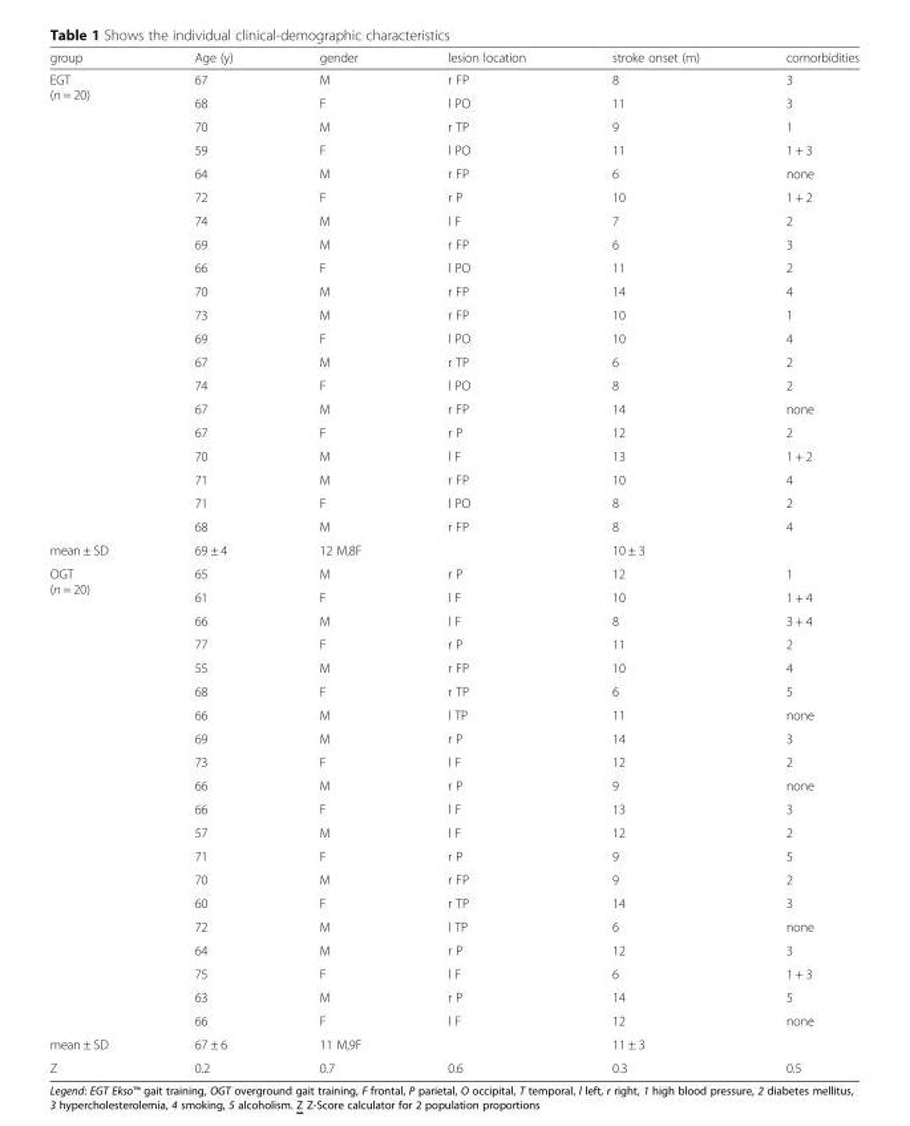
<table><thead><tr><td>group</td><td>Age (y)</td><td>gender</td><td>lesion location</td><td>stroke onset (m)</td><td>comorbidities</td></tr></thead><tbody><tr><td rowspan="20">EGT (n = 20)</td><td>67</td><td>M</td><td>r FP</td><td>8</td><td>3</td></tr><tr><td>68</td><td>F</td><td>l PO</td><td>11</td><td>3</td></tr><tr><td>70</td><td>M</td><td>r TP</td><td>9</td><td>1</td></tr><tr><td>59</td><td>F</td><td>l PO</td><td>11</td><td>1 + 3</td></tr><tr><td>64</td><td>M</td><td>r FP</td><td>6</td><td>none</td></tr><tr><td>72</td><td>F</td><td>r P</td><td>10</td><td>1 + 2</td></tr><tr><td>74</td><td>M</td><td>l F</td><td>7</td><td>2</td></tr><tr><td>69</td><td>M</td><td>r FP</td><td>6</td><td>3</td></tr><tr><td>66</td><td>F</td><td>l PO</td><td>11</td><td>2</td></tr><tr><td>70</td><td>M</td><td>r FP</td><td>14</td><td>4</td></tr><tr><td>73</td><td>M</td><td>r FP</td><td>10</td><td>1</td></tr><tr><td>69</td><td>F</td><td>l PO</td><td>10</td><td>4</td></tr><tr><td>67</td><td>M</td><td>r TP</td><td>6</td><td>2</td></tr><tr><td>74</td><td>F</td><td>l PO</td><td>8</td><td>2</td></tr><tr><td>67</td><td>M</td><td>r FP</td><td>14</td><td>none</td></tr><tr><td>67</td><td>F</td><td>r P</td><td>12</td><td>2</td></tr><tr><td>70</td><td>M</td><td>l F</td><td>13</td><td>1 + 2</td></tr><tr><td>71</td><td>M</td><td>r FP</td><td>10</td><td>4</td></tr><tr><td>71</td><td>F</td><td>l PO</td><td>8</td><td>2</td></tr><tr><td>68</td><td>M</td><td>r FP</td><td>8</td><td>4</td></tr><tr><td>mean ± SD</td><td>69 ± 4</td><td>12 M,8F</td><td></td><td>10 ± 3</td><td></td></tr><tr><td rowspan="20">OGT (n = 20)</td><td>65</td><td>M</td><td>r P</td><td>12</td><td>1</td></tr><tr><td>61</td><td>F</td><td>l F</td><td>10</td><td>1 + 4</td></tr><tr><td>66</td><td>M</td><td>l F</td><td>8</td><td>3 + 4</td></tr><tr><td>77</td><td>F</td><td>r P</td><td>11</td><td>2</td></tr><tr><td>55</td><td>M</td><td>r FP</td><td>10</td><td>4</td></tr><tr><td>68</td><td>F</td><td>r TP</td><td>6</td><td>5</td></tr><tr><td>66</td><td>M</td><td>l TP</td><td>11</td><td>none</td></tr><tr><td>69</td><td>M</td><td>r P</td><td>14</td><td>3</td></tr><tr><td>73</td><td>F</td><td>l F</td><td>12</td><td>2</td></tr><tr><td>66</td><td>M</td><td>r P</td><td>9</td><td>none</td></tr><tr><td>66</td><td>F</td><td>l F</td><td>13</td><td>3</td></tr><tr><td>57</td><td>M</td><td>l F</td><td>12</td><td>2</td></tr><tr><td>71</td><td>F</td><td>r P</td><td>9</td><td>5</td></tr><tr><td>70</td><td>M</td><td>r FP</td><td>9</td><td>2</td></tr><tr><td>60</td><td>F</td><td>r TP</td><td>14</td><td>3</td></tr><tr><td>72</td><td>M</td><td>l TP</td><td>6</td><td>none</td></tr><tr><td>64</td><td>M</td><td>r P</td><td>12</td><td>3</td></tr><tr><td>75</td><td>F</td><td>l F</td><td>6</td><td>1 + 3</td></tr><tr><td>63</td><td>M</td><td>r P</td><td>14</td><td>5</td></tr><tr><td>66</td><td>F</td><td>l F</td><td>12</td><td>none</td></tr><tr><td>mean ± SD</td><td>67 ± 6</td><td>11 M,9F</td><td></td><td>11 ± 3</td><td></td></tr><tr><td>Z</td><td>0.2</td><td>0.7</td><td>0.6</td><td>0.3</td><td>0.5</td></tr></tbody></table>